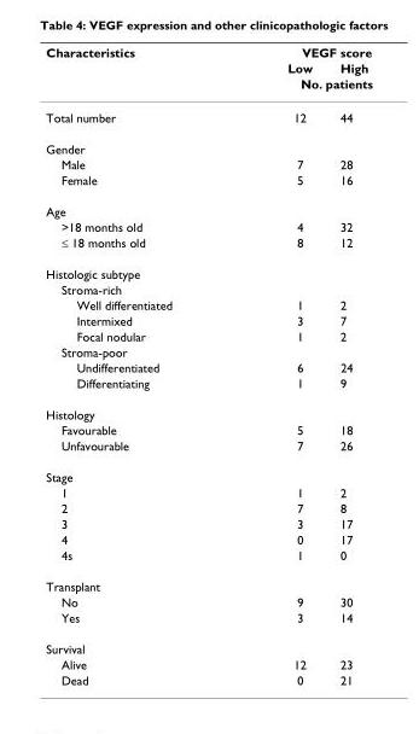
<table><thead><tr><td rowspan="3">Characteristics</td><td colspan="2">VEGF score</td></tr><tr><td>Low</td><td>High</td></tr><tr><td colspan="2">No. patients</td></tr></thead><tbody><tr><td>Total number</td><td>12</td><td>44</td></tr><tr><td colspan="3">Gender</td></tr><tr><td>Male</td><td>7</td><td>28</td></tr><tr><td>Female</td><td>5</td><td>16</td></tr><tr><td colspan="3">Age</td></tr><tr><td>&gt;18 months old</td><td>4</td><td>32</td></tr><tr><td>≤ 18 months old</td><td>8</td><td>12</td></tr><tr><td colspan="3">Histologic subtype</td></tr><tr><td colspan="3">Stroma-rich</td></tr><tr><td>Well differentiated</td><td>1</td><td>2</td></tr><tr><td>Intermixed</td><td>3</td><td>7</td></tr><tr><td>Focal nodular</td><td>1</td><td>2</td></tr><tr><td colspan="3">Stroma-poor</td></tr><tr><td>Undifferentiated</td><td>6</td><td>24</td></tr><tr><td>Differentiating</td><td>1</td><td>9</td></tr><tr><td colspan="3">Histology</td></tr><tr><td>Favourable</td><td>5</td><td>18</td></tr><tr><td>Unfavourable</td><td>7</td><td>26</td></tr><tr><td colspan="3">Stage</td></tr><tr><td>1</td><td>1</td><td>2</td></tr><tr><td>2</td><td>7</td><td>8</td></tr><tr><td>3</td><td>3</td><td>17</td></tr><tr><td>4</td><td>0</td><td>17</td></tr><tr><td>4s</td><td>1</td><td>0</td></tr><tr><td colspan="3">Transplant</td></tr><tr><td>No</td><td>9</td><td>30</td></tr><tr><td>Yes</td><td>3</td><td>14</td></tr><tr><td colspan="3">Survival</td></tr><tr><td>Alive</td><td>12</td><td>23</td></tr><tr><td>Dead</td><td>0</td><td>21</td></tr></tbody></table>